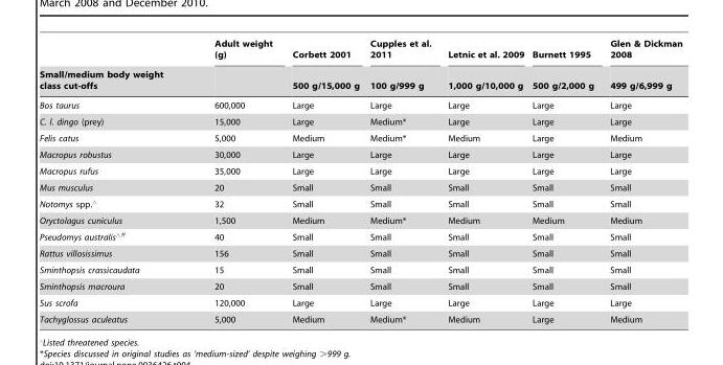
<table><thead><tr><td rowspan="2">Small/medium body weight class cut-offs</td><td rowspan="2">Adult weight (g)</td><td rowspan="2">Corbett 2001 500 g/15,000 g</td><td rowspan="2">Cupples et al. 2011 100 g/999 g</td><td rowspan="2">Letnic et al. 2009 1,000 g/10,000 g</td><td rowspan="2">Burnett 1995 500 g/2,000 g</td><td rowspan="2">Glen &amp; Dickman 2008 499 g/6,999 g</td></tr><tr></tr></thead><tbody><tr><td>Bos taurus</td><td>600,000</td><td>Large</td><td>Large</td><td>Large</td><td>Large</td><td>Large</td></tr><tr><td>C. l. dingo (prey)</td><td>15,000</td><td>Large</td><td>Medium*</td><td>Large</td><td>Large</td><td>Large</td></tr><tr><td>Felis catus</td><td>5,000</td><td>Medium</td><td>Medium*</td><td>Medium</td><td>Large</td><td>Medium</td></tr><tr><td>Macropus robustus</td><td>30,000</td><td>Large</td><td>Large</td><td>Large</td><td>Large</td><td>Large</td></tr><tr><td>Macropus rufus</td><td>35,000</td><td>Large</td><td>Large</td><td>Large</td><td>Large</td><td>Large</td></tr><tr><td>Mus musculus</td><td>20</td><td>Small</td><td>Small</td><td>Small</td><td>Small</td><td>Small</td></tr><tr><td>Notomys spp.‘</td><td>32</td><td>Small</td><td>Small</td><td>Small</td><td>Small</td><td>Small</td></tr><tr><td>Oryctolagus cuniculus</td><td>1,500</td><td>Medium</td><td>Medium*</td><td>Medium</td><td>Medium</td><td>Medium</td></tr><tr><td>Pseudomys australis‘#</td><td>40</td><td>Small</td><td>Small</td><td>Small</td><td>Small</td><td>Small</td></tr><tr><td>Rattus villosissimus</td><td>156</td><td>Small</td><td>Small</td><td>Small</td><td>Small</td><td>Small</td></tr><tr><td>Sminthopsis crassicaudata</td><td>15</td><td>Small</td><td>Small</td><td>Small</td><td>Small</td><td>Small</td></tr><tr><td>Sminthopsis macroura</td><td>20</td><td>Small</td><td>Small</td><td>Small</td><td>Small</td><td>Small</td></tr><tr><td>Sus scrofa</td><td>120,000</td><td>Large</td><td>Large</td><td>Large</td><td>Large</td><td>Large</td></tr><tr><td>Tachyglossus aculeatus</td><td>5,000</td><td>Medium</td><td>Medium*</td><td>Medium</td><td>Large</td><td>Medium</td></tr></tbody></table>